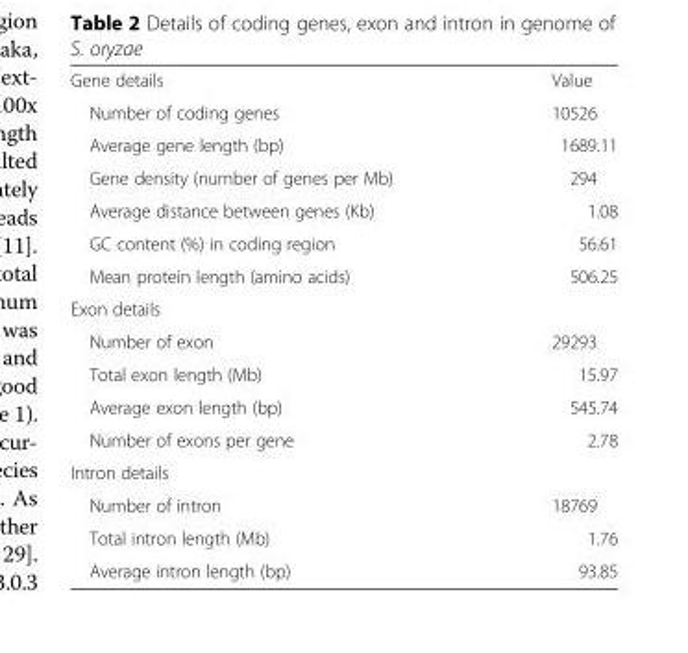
<table><tbody><tr><td>Gene details</td><td>Value</td></tr><tr><td>Number of coding genes</td><td>10526</td></tr><tr><td>Average gene length (bp)</td><td>1689.11</td></tr><tr><td>Gene density (number of genes per Mb)</td><td>294</td></tr><tr><td>Average distance between genes (Kb)</td><td>1.08</td></tr><tr><td>GC content (%) in coding region</td><td>56.61</td></tr><tr><td>Mean protein length (amino acids)</td><td>506.25</td></tr><tr><td colspan="2">Exon details</td></tr><tr><td>Number of exon</td><td>29293</td></tr><tr><td>Total exon length (Mb)</td><td>15.97</td></tr><tr><td>Average exon length (bp)</td><td>545.74</td></tr><tr><td>Number of exons per gene</td><td>2.78</td></tr><tr><td colspan="2">Intron details</td></tr><tr><td>Number of intron</td><td>18769</td></tr><tr><td>Total intron length (Mb)</td><td>1.76</td></tr><tr><td>Average intron length (bp)</td><td>93.85</td></tr></tbody></table>